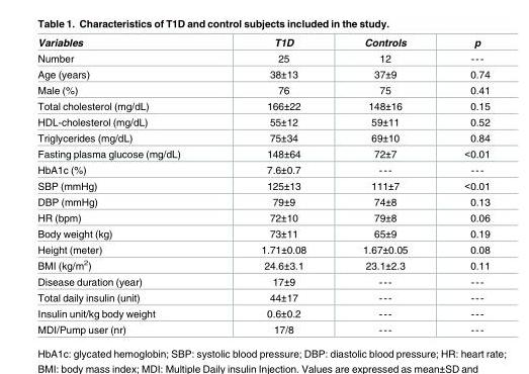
<table><thead><tr><td>Variables</td><td>T1D</td><td>Controls</td><td>p</td></tr></thead><tbody><tr><td>Number</td><td>25</td><td>12</td><td>---</td></tr><tr><td>Age (years)</td><td>38±13</td><td>37±9</td><td>0.74</td></tr><tr><td>Male (%)</td><td>76</td><td>75</td><td>0.41</td></tr><tr><td>Total cholesterol (mg/dL)</td><td>166±22</td><td>148±16</td><td>0.15</td></tr><tr><td>HDL-cholesterol (mg/dL)</td><td>55±12</td><td>59±11</td><td>0.52</td></tr><tr><td>Triglycerides (mg/dL)</td><td>75±34</td><td>69±10</td><td>0.84</td></tr><tr><td>Fasting plasma glucose (mg/dL)</td><td>148±64</td><td>72±7</td><td>&lt;0.01</td></tr><tr><td>HbA1c (%)</td><td>7.6±0.7</td><td>---</td><td>---</td></tr><tr><td>SBP (mmHg)</td><td>125±13</td><td>111±7</td><td>&lt;0.01</td></tr><tr><td>DBP (mmHg)</td><td>79±9</td><td>74±8</td><td>0.13</td></tr><tr><td>HR (bpm)</td><td>72±10</td><td>79±8</td><td>0.06</td></tr><tr><td>Body weight (kg)</td><td>73±11</td><td>65±9</td><td>0.19</td></tr><tr><td>Height (meter)</td><td>1.71±0.08</td><td>1.67±0.05</td><td>0.08</td></tr><tr><td>BMI (kg/m<sup>2</sup>)</td><td>24.6±3.1</td><td>23.1±2.3</td><td>0.11</td></tr><tr><td>Disease duration (year)</td><td>17±9</td><td>---</td><td>---</td></tr><tr><td>Total daily insulin (unit)</td><td>44±17</td><td>---</td><td>---</td></tr><tr><td>Insulin unit/kg body weight</td><td>0.6±0.2</td><td>---</td><td>---</td></tr><tr><td>MDI/Pump user (nr)</td><td>17/8</td><td>---</td><td>---</td></tr></tbody></table>